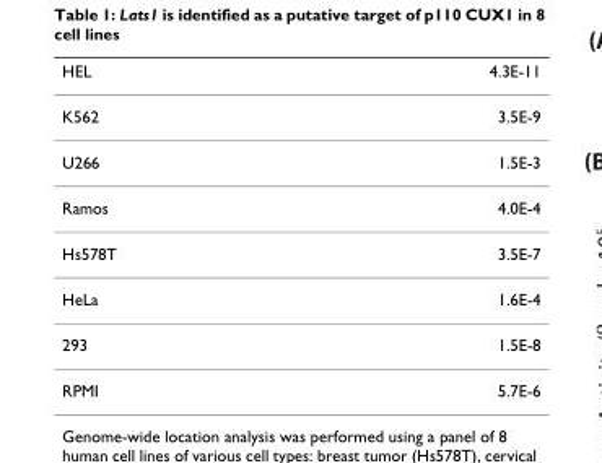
<table><thead><tr><td>HEL</td><td>4.3E-11</td></tr></thead><tbody><tr><td>K562</td><td>3.5E-9</td></tr><tr><td>U266</td><td>1.5E-3</td></tr><tr><td>Ramos</td><td>4.0E-4</td></tr><tr><td>Hs578T</td><td>3.5E-7</td></tr><tr><td>HeLa</td><td>1.6E-4</td></tr><tr><td>293</td><td>1.5E-8</td></tr><tr><td>RPMI</td><td>5.7E-6</td></tr></tbody></table>